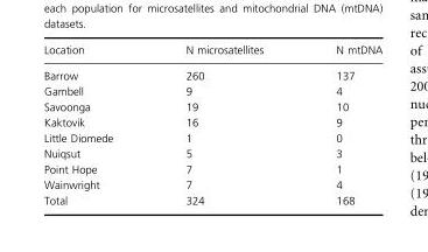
<table><thead><tr><td>Location</td><td>N microsatellites</td><td>N mtDNA</td></tr></thead><tbody><tr><td>Barrow</td><td>260</td><td>137</td></tr><tr><td>Gambell</td><td>9</td><td>4</td></tr><tr><td>Savoonga</td><td>19</td><td>10</td></tr><tr><td>Kaktovik</td><td>16</td><td>9</td></tr><tr><td>Little Diomede</td><td>1</td><td>0</td></tr><tr><td>Nuiqsut</td><td>5</td><td>3</td></tr><tr><td>Point Hope</td><td>7</td><td>1</td></tr><tr><td>Wainwright</td><td>7</td><td>4</td></tr><tr><td>Total</td><td>324</td><td>168</td></tr></tbody></table>